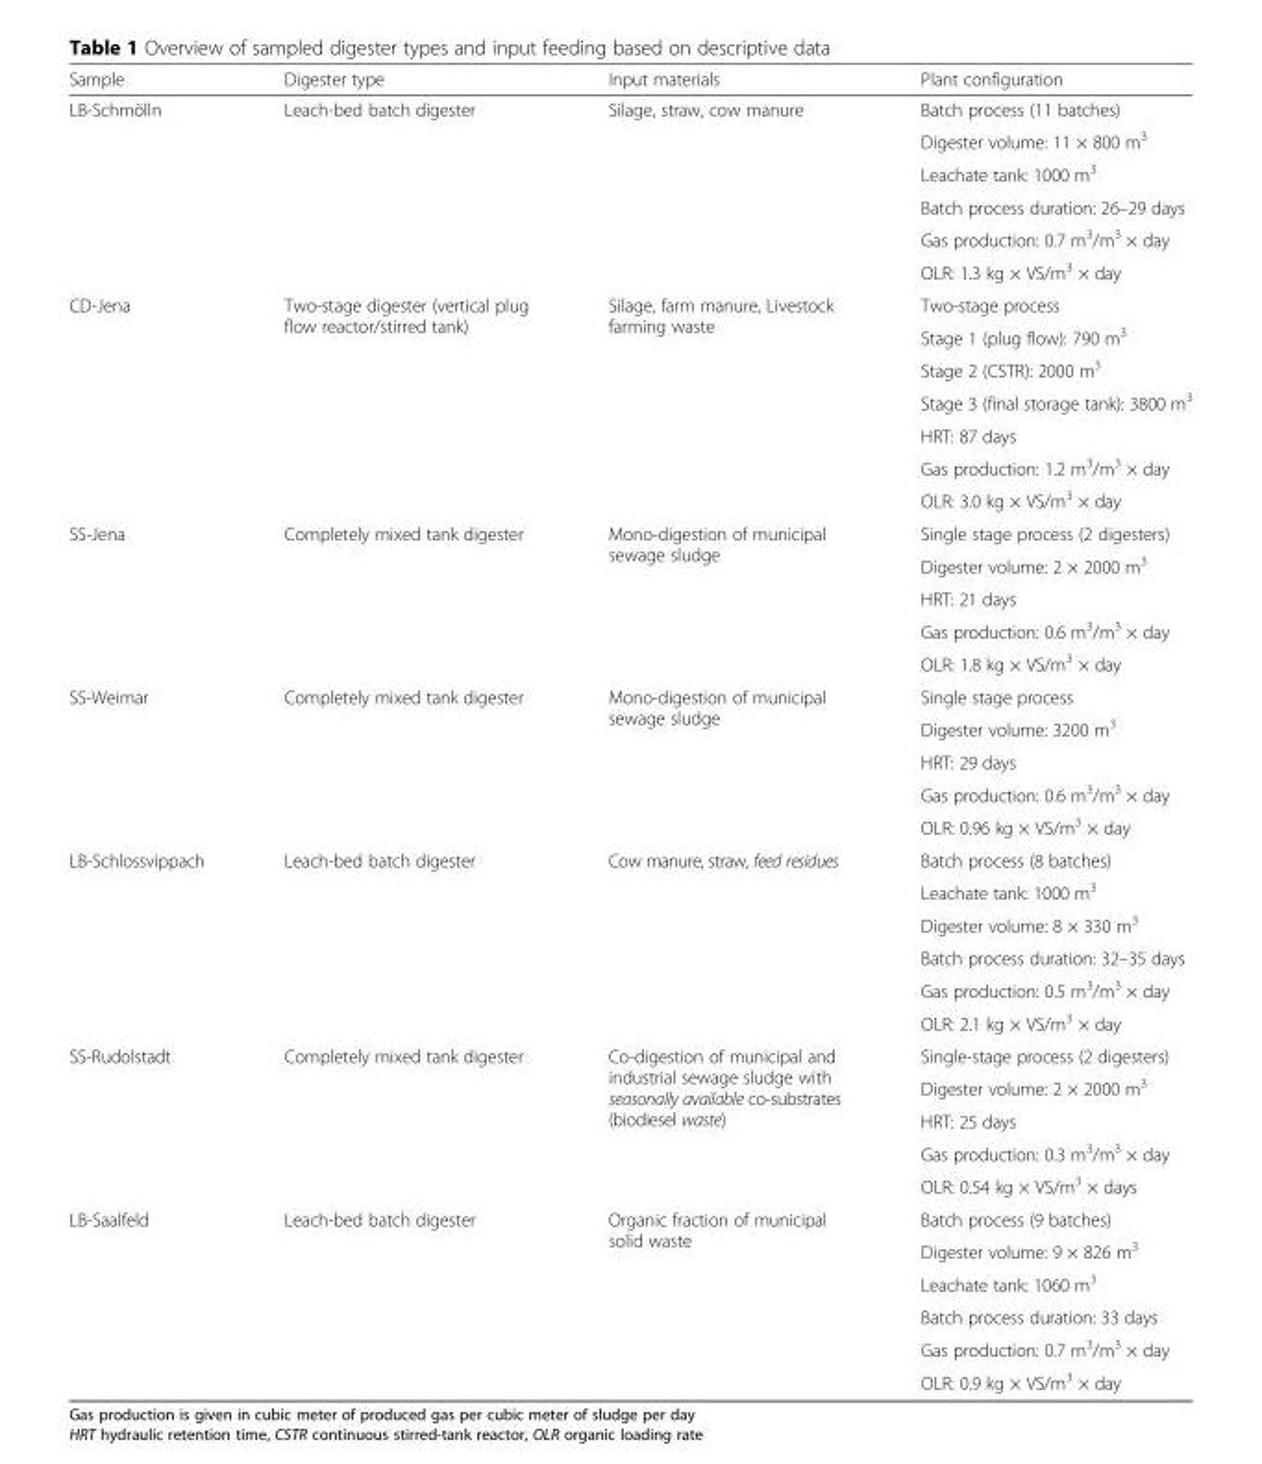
<table><thead><tr><td>Sample</td><td>Digester type</td><td>Input materials</td><td>Plant configuration</td></tr></thead><tbody><tr><td rowspan="6">LB-Schmölln</td><td rowspan="6">Leach-bed batch digester</td><td rowspan="6">Silage, straw, cow manure</td><td>Batch process (11 batches)</td></tr><tr><td>Digester volume: 11 × 800 m<sup>3</sup></td></tr><tr><td>Leachate tank: 1000 m<sup>3</sup></td></tr><tr><td>Batch process duration: 26–29 days</td></tr><tr><td>Gas production: 0.7 m<sup>3</sup>/m<sup>3</sup> × day</td></tr><tr><td>OLR: 1.3 kg × VS/m<sup>3</sup> × day</td></tr><tr><td rowspan="7">CD-Jena</td><td rowspan="7">Two-stage digester (vertical plug flow reactor/stirred tank)</td><td rowspan="7">Silage, farm manure, Livestock farming waste</td><td>Two-stage process</td></tr><tr><td>Stage 1 (plug flow): 790 m<sup>3</sup></td></tr><tr><td>Stage 2 (CSTR): 2000 m<sup>3</sup></td></tr><tr><td>Stage 3 (final storage tank): 3800 m<sup>3</sup></td></tr><tr><td>HRT: 87 days</td></tr><tr><td>Gas production: 1.2 m<sup>3</sup>/m<sup>3</sup> × day</td></tr><tr><td>OLR: 3.0 kg × VS/m<sup>3</sup> × day</td></tr><tr><td rowspan="5">SS-Jena</td><td rowspan="5">Completely mixed tank digester</td><td rowspan="5">Mono-digestion of municipal sewage sludge</td><td>Single stage process (2 digesters)</td></tr><tr><td>Digester volume: 2 × 2000 m<sup>3</sup></td></tr><tr><td>HRT: 21 days</td></tr><tr><td>Gas production: 0.6 m<sup>3</sup>/m<sup>3</sup> × day</td></tr><tr><td>OLR: 1.8 kg × VS/m<sup>3</sup> × day</td></tr><tr><td rowspan="5">SS-Weimar</td><td rowspan="5">Completely mixed tank digester</td><td rowspan="5">Mono-digestion of municipal sewage sludge</td><td>Single stage process</td></tr><tr><td>Digester volume: 3200 m<sup>3</sup></td></tr><tr><td>HRT: 29 days</td></tr><tr><td>Gas production: 0.6 m<sup>3</sup>/m<sup>3</sup> × day</td></tr><tr><td>OLR: 0.96 kg × VS/m<sup>3</sup> × day</td></tr><tr><td rowspan="6">LB-Schlossvippach</td><td rowspan="6">Leach-bed batch digester</td><td rowspan="6">Cow manure, straw, feed residues</td><td>Batch process (8 batches)</td></tr><tr><td>Leachate tank: 1000 m<sup>3</sup></td></tr><tr><td>Digester volume: 8 × 330 m<sup>3</sup></td></tr><tr><td>Batch process duration: 32–35 days</td></tr><tr><td>Gas production: 0.5 m<sup>3</sup>/m<sup>3</sup> × day</td></tr><tr><td>OLR: 2.1 kg × VS/m<sup>3</sup> × day</td></tr><tr><td rowspan="5">SS-Rudolstadt</td><td rowspan="5">Completely mixed tank digester</td><td rowspan="5">Co-digestion of municipal and industrial sewage sludge with seasonally available co-substrates (biodiesel waste)</td><td>Single-stage process (2 digesters)</td></tr><tr><td>Digester volume: 2 × 2000 m<sup>3</sup></td></tr><tr><td>HRT: 25 days</td></tr><tr><td>Gas production: 0.3 m<sup>3</sup>/m<sup>3</sup> × day</td></tr><tr><td>OLR: 0.54 kg × VS/m<sup>3</sup> × days</td></tr><tr><td rowspan="6">LB-Saalfeld</td><td rowspan="6">Leach-bed batch digester</td><td rowspan="6">Organic fraction of municipal solid waste</td><td>Batch process (9 batches)</td></tr><tr><td>Digester volume: 9 × 826 m<sup>3</sup></td></tr><tr><td>Leachate tank: 1060 m<sup>3</sup></td></tr><tr><td>Batch process duration: 33 days</td></tr><tr><td>Gas production: 0.7 m<sup>3</sup>/m<sup>3</sup> × day</td></tr><tr><td>OLR: 0.9 kg × VS/m<sup>3</sup> × day</td></tr></tbody></table>